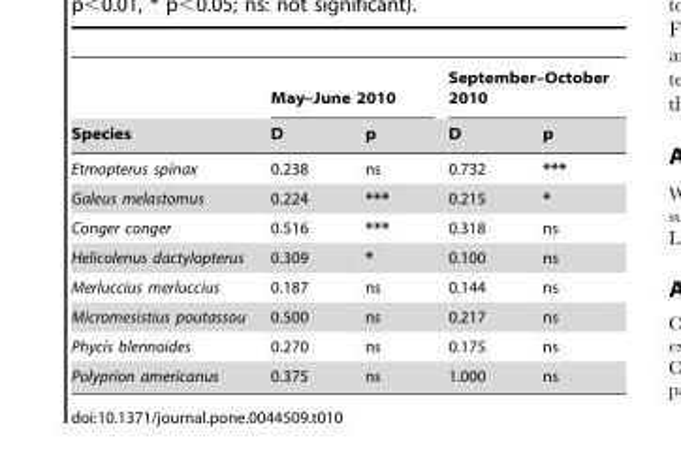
<table><thead><tr><td rowspan="2">Species</td><td colspan="2">May–June 2010</td><td colspan="2">September–October 2010</td></tr><tr><td>D</td><td>p</td><td>D</td><td>p</td></tr></thead><tbody><tr><td>Etmopterus spinax</td><td>0.238</td><td>ns</td><td>0.732</td><td>***</td></tr><tr><td>Galeus melastomus</td><td>0.224</td><td>***</td><td>0.215</td><td>*</td></tr><tr><td>Conger conger</td><td>0.516</td><td>***</td><td>0.318</td><td>ns</td></tr><tr><td>Helicolenus dactylopterus</td><td>0.309</td><td>*</td><td>0.100</td><td>ns</td></tr><tr><td>Merluccius merluccius</td><td>0.187</td><td>ns</td><td>0.144</td><td>ns</td></tr><tr><td>Micromesistius poutassou</td><td>0.500</td><td>ns</td><td>0.217</td><td>ns</td></tr><tr><td>Phycis blennoides</td><td>0.270</td><td>ns</td><td>0.175</td><td>ns</td></tr><tr><td>Polyprion americanus</td><td>0.375</td><td>ns</td><td>1.000</td><td>ns</td></tr></tbody></table>